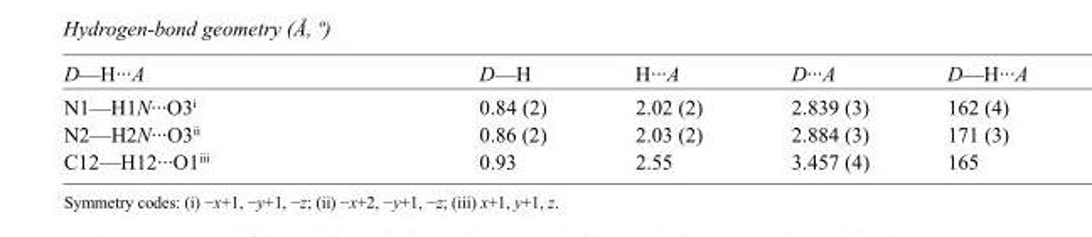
<table><tbody><tr><td>D—H···A</td><td>D—H</td><td>H···A</td><td>D···A</td><td>D—H···A</td></tr><tr><td>N1—H1N···O3<sup>i</sup></td><td>0.84 (2)</td><td>2.02 (2)</td><td>2.839 (3)</td><td>162 (4)</td></tr><tr><td>N2—H2N···O3<sup>ii</sup></td><td>0.86 (2)</td><td>2.03 (2)</td><td>2.884 (3)</td><td>171 (3)</td></tr><tr><td>C12—H12···O1<sup>iii</sup></td><td>0.93</td><td>2.55</td><td>3.457 (4)</td><td>165</td></tr></tbody></table>